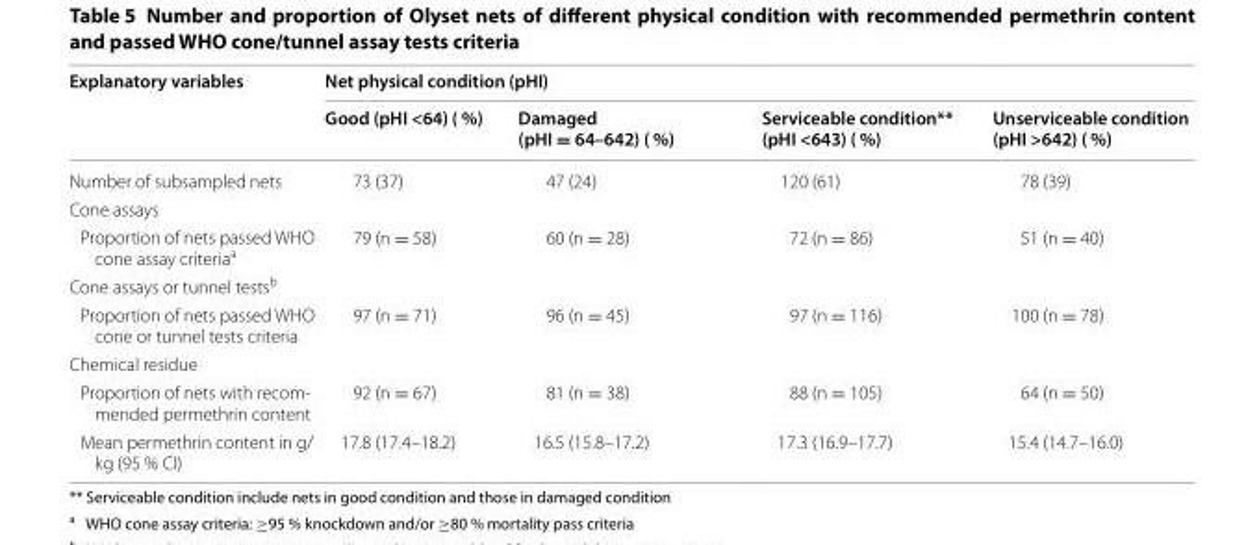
<table><thead><tr><td rowspan="2">Explanatory variables</td><td colspan="4">Net physical condition (pHI)</td></tr><tr><td>Good (pHI &lt;64) ( %)</td><td>Damaged (pHI = 64–642) ( %)</td><td>Serviceable condition** (pHI &lt;643) ( %)</td><td>Unserviceable condition (pHI &gt;642) ( %)</td></tr></thead><tbody><tr><td>Number of subsampled nets</td><td>73 (37)</td><td>47 (24)</td><td>120 (61)</td><td>78 (39)</td></tr><tr><td colspan="5">Cone assays</td></tr><tr><td>Proportion of nets passed WHO cone assay criteria<sup>a</sup></td><td>79 (n = 58)</td><td>60 (n = 28)</td><td>72 (n = 86)</td><td>51 (n = 40)</td></tr><tr><td colspan="5">Cone assays or tunnel tests<sup>b</sup></td></tr><tr><td>Proportion of nets passed WHO cone or tunnel tests criteria</td><td>97 (n = 71)</td><td>96 (n = 45)</td><td>97 (n = 116)</td><td>100 (n = 78)</td></tr><tr><td colspan="5">Chemical residue</td></tr><tr><td>Proportion of nets with recom- mended permethrin content</td><td>92 (n = 67)</td><td>81 (n = 38)</td><td>88 (n = 105)</td><td>64 (n = 50)</td></tr><tr><td>Mean permethrin content in g/ kg (95 % CI)</td><td>17.8 (17.4–18.2)</td><td>16.5 (15.8–17.2)</td><td>17.3 (16.9–17.7)</td><td>15.4 (14.7–16.0)</td></tr></tbody></table>